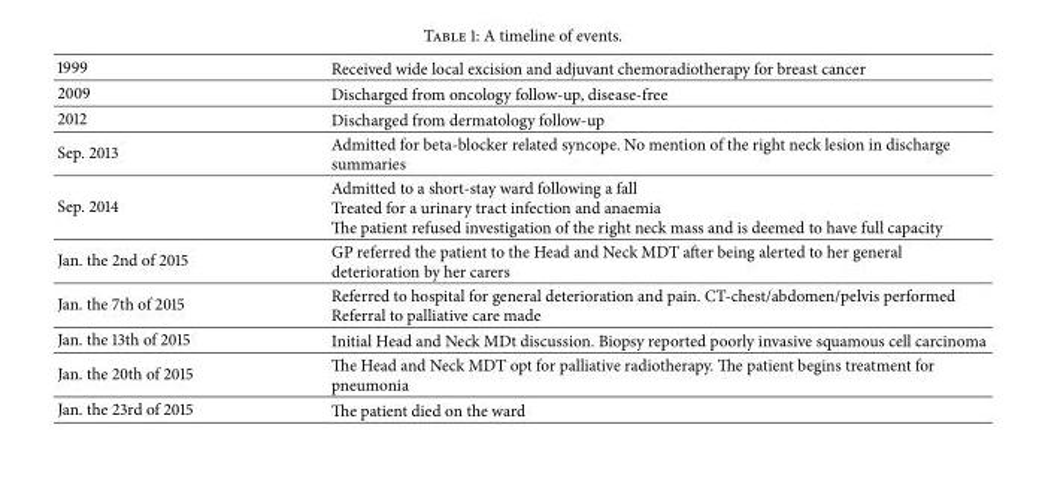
<table><tbody><tr><td>1999</td><td>Received wide local excision and adjuvant chemoradiotherapy for breast cancer</td></tr><tr><td>2009</td><td>Discharged from oncology follow-up, disease-free</td></tr><tr><td>2012</td><td>Discharged from dermatology follow-up</td></tr><tr><td>Sep. 2013</td><td>Admitted for beta-blocker related syncope. No mention of the right neck lesion in discharge summaries</td></tr><tr><td>Sep. 2014</td><td>Admitted to a short-stay ward following a fall Treated for a urinary tract infection and anaemia The patient refused investigation of the right neck mass and is deemed to have full capacity</td></tr><tr><td>Jan. the 2nd of 2015</td><td>GP referred the patient to the Head and Neck MDT after being alerted to her general deterioration by her carers</td></tr><tr><td>Jan. the 7th of 2015</td><td>Referred to hospital for general deterioration and pain. CT-chest/abdomen/pelvis performed Referral to palliative care made</td></tr><tr><td>Jan. the 13th of 2015</td><td>Initial Head and Neck MDt discussion. Biopsy reported poorly invasive squamous cell carcinoma</td></tr><tr><td>Jan. the 20th of 2015</td><td>The Head and Neck MDT opt for palliative radiotherapy. The patient begins treatment for pneumonia</td></tr><tr><td>Jan. the 23rd of 2015</td><td>The patient died on the ward</td></tr></tbody></table>